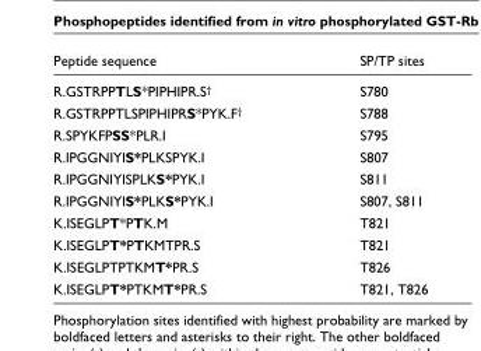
<table><thead><tr><td>Peptide sequence</td><td>SP/TP sites</td></tr></thead><tbody><tr><td>R.GSTRPPTLS*PIPHIPR.S<sup>†</sup></td><td>S780</td></tr><tr><td>R.GSTRPPTLSPIPHIPRS*PYK.F<sup>†</sup></td><td>S788</td></tr><tr><td>R.SPYKFPSS*PLR.I</td><td>S795</td></tr><tr><td>R.IPGGNIYIS*PLKSPYK.I</td><td>S807</td></tr><tr><td>R.IPGGNIYISPLKS*PYK.I</td><td>S811</td></tr><tr><td>R.IPGGNIYIS*PLKS*PYK.I</td><td>S807, S811</td></tr><tr><td>K.ISEGLPT*PTK.M</td><td>T821</td></tr><tr><td>K.ISEGLPT*PTKMTPR.S</td><td>T821</td></tr><tr><td>K.ISEGLPTPTKMT*PR.S</td><td>T826</td></tr><tr><td>K.ISEGLPT*PTKMT*PR.S</td><td>T821, T826</td></tr></tbody></table>